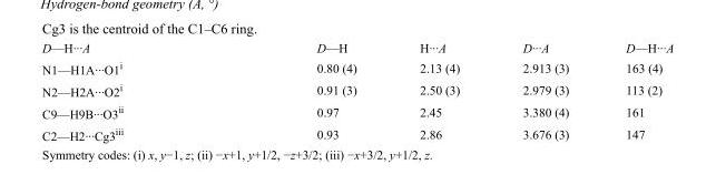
<table><tbody><tr><td>D—H···A</td><td>D—H</td><td>H···A</td><td>D···A</td><td>D—H···A</td></tr><tr><td>N1—H1A···O1<sup>i</sup></td><td>0.80 (4)</td><td>2.13 (4)</td><td>2.913 (3)</td><td>163 (4)</td></tr><tr><td>N2—H2A···O2<sup>i</sup></td><td>0.91 (3)</td><td>2.50 (3)</td><td>2.979 (3)</td><td>113 (2)</td></tr><tr><td>C9—H9B···O3<sup>ii</sup></td><td>0.97</td><td>2.45</td><td>3.380 (4)</td><td>161</td></tr><tr><td>C2—H2···Cg3<sup>iii</sup></td><td>0.93</td><td>2.86</td><td>3.676 (3)</td><td>147</td></tr></tbody></table>